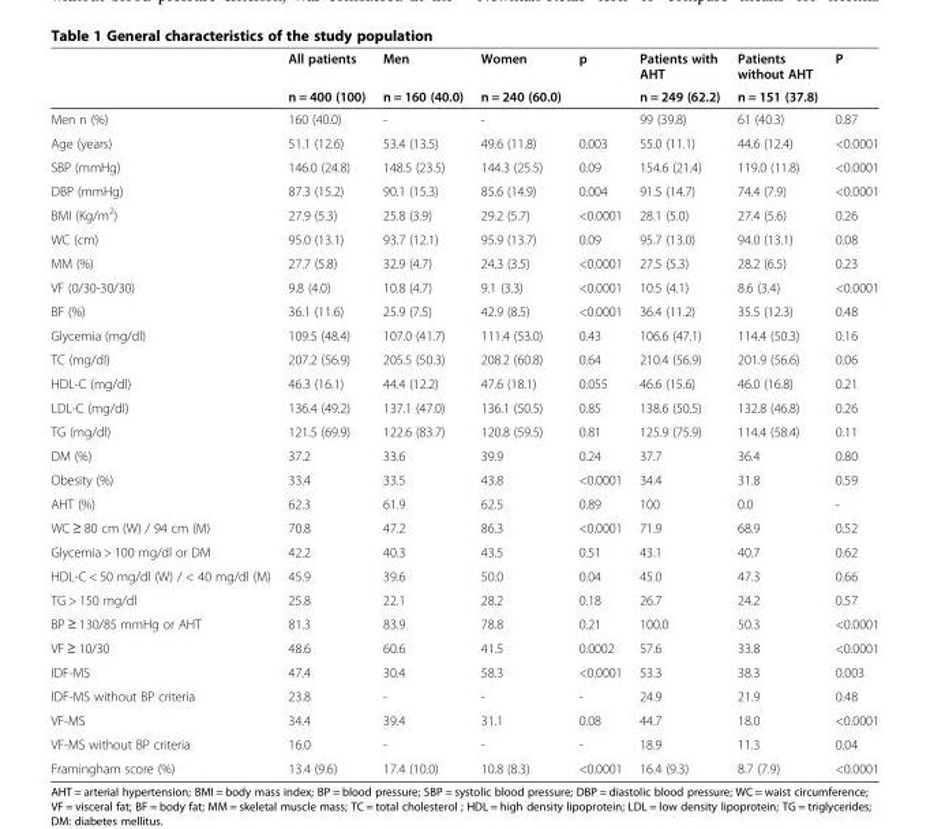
<table><thead><tr><td rowspan="2"></td><td rowspan="2">All patients n = 400 (100)</td><td rowspan="2">Men n = 160 (40.0)</td><td rowspan="2">Women n = 240 (60.0)</td><td rowspan="2">p</td><td rowspan="2">Patients with AHT n = 249 (62.2)</td><td rowspan="2">Patients without AHT n = 151 (37.8)</td><td rowspan="2">P</td></tr><tr></tr></thead><tbody><tr><td>Men n (%)</td><td>160 (40.0)</td><td>-</td><td>-</td><td></td><td>99 (39.8)</td><td>61 (40.3)</td><td>0.87</td></tr><tr><td>Age (years)</td><td>51.1 (12.6)</td><td>53.4 (13.5)</td><td>49.6 (11.8)</td><td>0.003</td><td>55.0 (11.1)</td><td>44.6 (12.4)</td><td>&lt;0.0001</td></tr><tr><td>SBP (mmHg)</td><td>146.0 (24.8)</td><td>148.5 (23.5)</td><td>144.3 (25.5)</td><td>0.09</td><td>154.6 (21.4)</td><td>119.0 (11.8)</td><td>&lt;0.0001</td></tr><tr><td>DBP (mmHg)</td><td>87.3 (15.2)</td><td>90.1 (15.3)</td><td>85.6 (14.9)</td><td>0.004</td><td>91.5 (14.7)</td><td>74.4 (7.9)</td><td>&lt;0.0001</td></tr><tr><td>BMI (Kg/m<sup>2</sup>)</td><td>27.9 (5.3)</td><td>25.8 (3.9)</td><td>29.2 (5.7)</td><td>&lt;0.0001</td><td>28.1 (5.0)</td><td>27.4 (5.6)</td><td>0.26</td></tr><tr><td>WC (cm)</td><td>95.0 (13.1)</td><td>93.7 (12.1)</td><td>95.9 (13.7)</td><td>0.09</td><td>95.7 (13.0)</td><td>94.0 (13.1)</td><td>0.08</td></tr><tr><td>MM (%)</td><td>27.7 (5.8)</td><td>32.9 (4.7)</td><td>24.3 (3.5)</td><td>&lt;0.0001</td><td>27.5 (5.3)</td><td>28.2 (6.5)</td><td>0.23</td></tr><tr><td>VF (0/30-30/30)</td><td>9.8 (4.0)</td><td>10.8 (4.7)</td><td>9.1 (3.3)</td><td>&lt;0.0001</td><td>10.5 (4.1)</td><td>8.6 (3.4)</td><td>&lt;0.0001</td></tr><tr><td>BF (%)</td><td>36.1 (11.6)</td><td>25.9 (7.5)</td><td>42.9 (8.5)</td><td>&lt;0.0001</td><td>36.4 (11.2)</td><td>35.5 (12.3)</td><td>0.48</td></tr><tr><td>Glycemia (mg/dl)</td><td>109.5 (48.4)</td><td>107.0 (41.7)</td><td>111.4 (53.0)</td><td>0.43</td><td>106.6 (47.1)</td><td>114.4 (50.3)</td><td>0.16</td></tr><tr><td>TC (mg/dl)</td><td>207.2 (56.9)</td><td>205.5 (50.3)</td><td>208.2 (60.8)</td><td>0.64</td><td>210.4 (56.9)</td><td>201.9 (56.6)</td><td>0.06</td></tr><tr><td>HDL-C (mg/dl)</td><td>46.3 (16.1)</td><td>44.4 (12.2)</td><td>47.6 (18.1)</td><td>0.055</td><td>46.6 (15.6)</td><td>46.0 (16.8)</td><td>0.21</td></tr><tr><td>LDL-C (mg/dl)</td><td>136.4 (49.2)</td><td>137.1 (47.0)</td><td>136.1 (50.5)</td><td>0.85</td><td>138.6 (50.5)</td><td>132.8 (46.8)</td><td>0.26</td></tr><tr><td>TG (mg/dl)</td><td>121.5 (69.9)</td><td>122.6 (83.7)</td><td>120.8 (59.5)</td><td>0.81</td><td>125.9 (75.9)</td><td>114.4 (58.4)</td><td>0.11</td></tr><tr><td>DM (%)</td><td>37.2</td><td>33.6</td><td>39.9</td><td>0.24</td><td>37.7</td><td>36.4</td><td>0.80</td></tr><tr><td>Obesity (%)</td><td>33.4</td><td>33.5</td><td>43.8</td><td>&lt;0.0001</td><td>34.4</td><td>31.8</td><td>0.59</td></tr><tr><td>AHT (%)</td><td>62.3</td><td>61.9</td><td>62.5</td><td>0.89</td><td>100</td><td>0.0</td><td>-</td></tr><tr><td>WC ≥ 80 cm (W) / 94 cm (M)</td><td>70.8</td><td>47.2</td><td>86.3</td><td>&lt;0.0001</td><td>71.9</td><td>68.9</td><td>0.52</td></tr><tr><td>Glycemia &gt; 100 mg/dl or DM</td><td>42.2</td><td>40.3</td><td>43.5</td><td>0.51</td><td>43.1</td><td>40.7</td><td>0.62</td></tr><tr><td>HDL-C &lt; 50 mg/dl (W) / &lt; 40 mg/dl (M)</td><td>45.9</td><td>39.6</td><td>50.0</td><td>0.04</td><td>45.0</td><td>47.3</td><td>0.66</td></tr><tr><td>TG &gt; 150 mg/dl</td><td>25.8</td><td>22.1</td><td>28.2</td><td>0.18</td><td>26.7</td><td>24.2</td><td>0.57</td></tr><tr><td>BP ≥ 130/85 mmHg or AHT</td><td>81.3</td><td>83.9</td><td>78.8</td><td>0.21</td><td>100.0</td><td>50.3</td><td>&lt;0.0001</td></tr><tr><td>VF ≥ 10/30</td><td>48.6</td><td>60.6</td><td>41.5</td><td>0.0002</td><td>57.6</td><td>33.8</td><td>&lt;0.0001</td></tr><tr><td>IDF-MS</td><td>47.4</td><td>30.4</td><td>58.3</td><td>&lt;0.0001</td><td>53.3</td><td>38.3</td><td>0.003</td></tr><tr><td>IDF-MS without BP criteria</td><td>23.8</td><td>-</td><td>-</td><td>-</td><td>24.9</td><td>21.9</td><td>0.48</td></tr><tr><td>VF-MS</td><td>34.4</td><td>39.4</td><td>31.1</td><td>0.08</td><td>44.7</td><td>18.0</td><td>&lt;0.0001</td></tr><tr><td>VF-MS without BP criteria</td><td>16.0</td><td>-</td><td>-</td><td>-</td><td>18.9</td><td>11.3</td><td>0.04</td></tr><tr><td>Framingham score (%)</td><td>13.4 (9.6)</td><td>17.4 (10.0)</td><td>10.8 (8.3)</td><td>&lt;0.0001</td><td>16.4 (9.3)</td><td>8.7 (7.9)</td><td>&lt;0.0001</td></tr></tbody></table>